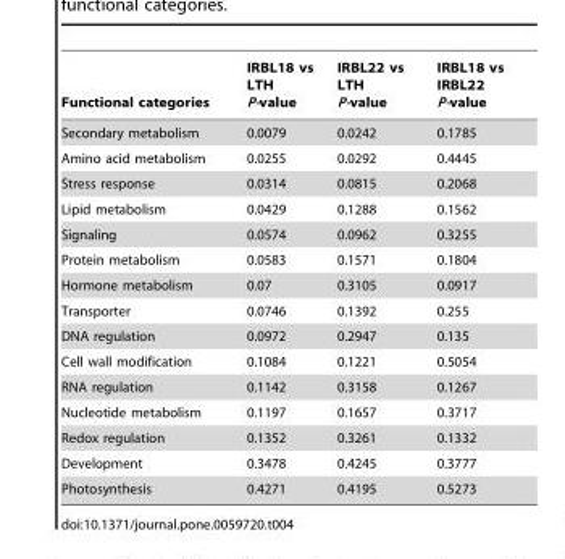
<table><thead><tr><td>Functional categories</td><td>IRBL18 vs LTH P-value</td><td>IRBL22 vs LTH P-value</td><td>IRBL18 vs IRBL22 P-value</td></tr></thead><tbody><tr><td>Secondary metabolism</td><td>0.0079</td><td>0.0242</td><td>0.1785</td></tr><tr><td>Amino acid metabolism</td><td>0.0255</td><td>0.0292</td><td>0.4445</td></tr><tr><td>Stress response</td><td>0.0314</td><td>0.0815</td><td>0.2068</td></tr><tr><td>Lipid metabolism</td><td>0.0429</td><td>0.1288</td><td>0.1562</td></tr><tr><td>Signaling</td><td>0.0574</td><td>0.0962</td><td>0.3255</td></tr><tr><td>Protein metabolism</td><td>0.0583</td><td>0.1571</td><td>0.1804</td></tr><tr><td>Hormone metabolism</td><td>0.07</td><td>0.3105</td><td>0.0917</td></tr><tr><td>Transporter</td><td>0.0746</td><td>0.1392</td><td>0.255</td></tr><tr><td>DNA regulation</td><td>0.0972</td><td>0.2947</td><td>0.135</td></tr><tr><td>Cell wall modification</td><td>0.1084</td><td>0.1221</td><td>0.5054</td></tr><tr><td>RNA regulation</td><td>0.1142</td><td>0.3158</td><td>0.1267</td></tr><tr><td>Nucleotide metabolism</td><td>0.1197</td><td>0.1657</td><td>0.3717</td></tr><tr><td>Redox regulation</td><td>0.1352</td><td>0.3261</td><td>0.1332</td></tr><tr><td>Development</td><td>0.3478</td><td>0.4245</td><td>0.3777</td></tr><tr><td>Photosynthesis</td><td>0.4271</td><td>0.4195</td><td>0.5273</td></tr></tbody></table>